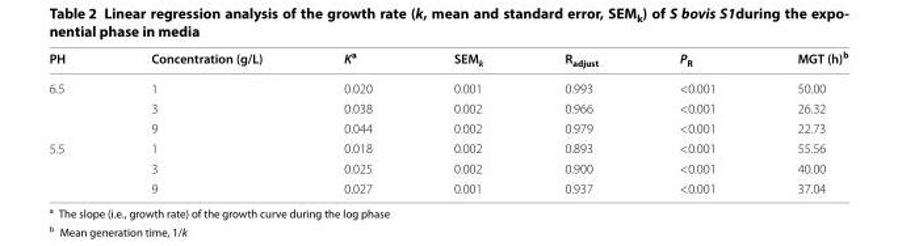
<table><thead><tr><td>PH</td><td>Concentration (g/L)</td><td>K<sup>a</sup></td><td>SEM<sub>k</sub></td><td>R<sub>adjust</sub></td><td>P<sub>R</sub></td><td>MGT (h)<sup>b</sup></td></tr></thead><tbody><tr><td rowspan="3">6.5</td><td>1</td><td>0.020</td><td>0.001</td><td>0.993</td><td>&lt;0.001</td><td>50.00</td></tr><tr><td>3</td><td>0.038</td><td>0.002</td><td>0.966</td><td>&lt;0.001</td><td>26.32</td></tr><tr><td>9</td><td>0.044</td><td>0.002</td><td>0.979</td><td>&lt;0.001</td><td>22.73</td></tr><tr><td rowspan="3">5.5</td><td>1</td><td>0.018</td><td>0.002</td><td>0.893</td><td>&lt;0.001</td><td>55.56</td></tr><tr><td>3</td><td>0.025</td><td>0.002</td><td>0.900</td><td>&lt;0.001</td><td>40.00</td></tr><tr><td>9</td><td>0.027</td><td>0.001</td><td>0.937</td><td>&lt;0.001</td><td>37.04</td></tr></tbody></table>